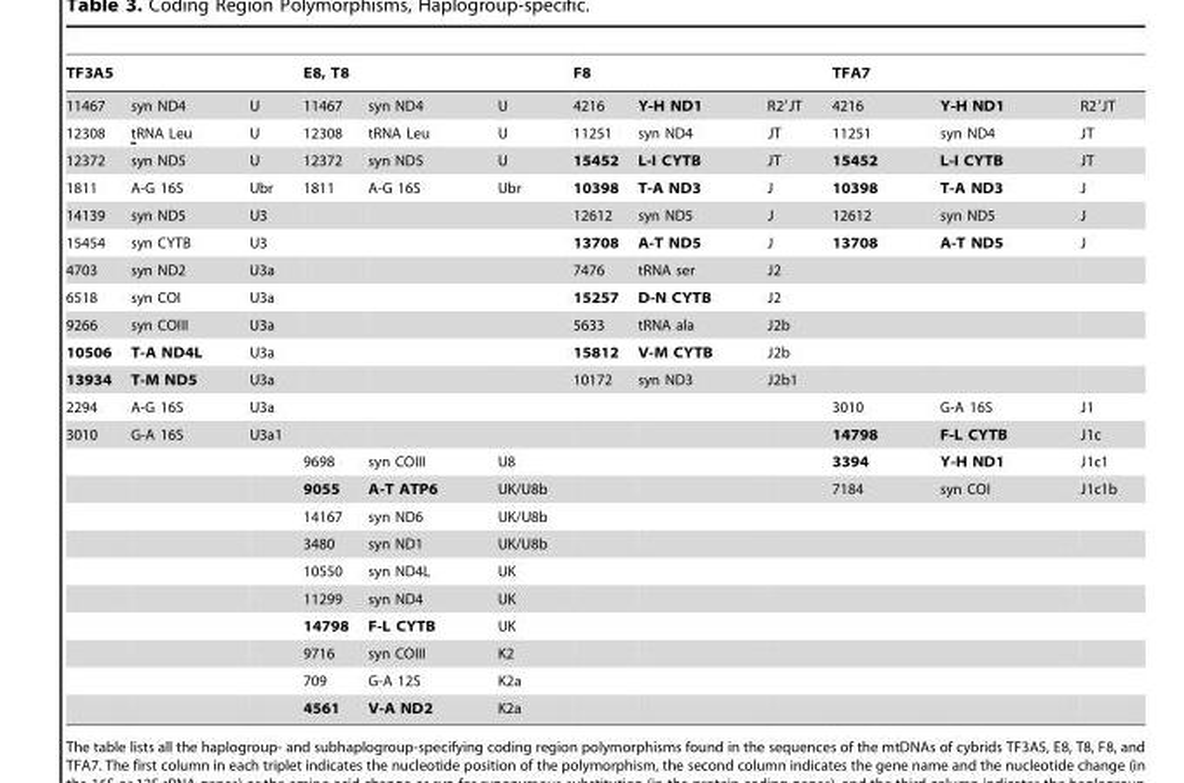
<table><thead><tr><td colspan="3">TF3A5</td><td colspan="3">E8, T8</td><td colspan="3">F8</td><td colspan="3">TFA7</td></tr><tr><td>11467</td><td>syn ND4</td><td>U</td><td>11467</td><td>syn ND4</td><td>U</td><td>4216</td><td>Y-H ND1</td><td>R2′JT</td><td>4216</td><td>Y-H ND1</td><td>R2′JT</td></tr></thead><tbody><tr><td>12308</td><td>tRNA Leu</td><td>U</td><td>12308</td><td>tRNA Leu</td><td>U</td><td>11251</td><td>syn ND4</td><td>JT</td><td>11251</td><td>syn ND4</td><td>JT</td></tr><tr><td>12372</td><td>syn ND5</td><td>U</td><td>12372</td><td>syn ND5</td><td>U</td><td>15452</td><td>L-I CYTB</td><td>JT</td><td>15452</td><td>L-I CYTB</td><td>JT</td></tr><tr><td>1811</td><td>A-G 16S</td><td>Ubr</td><td>1811</td><td>A-G 16S</td><td>Ubr</td><td>10398</td><td>T-A ND3</td><td>J</td><td>10398</td><td>T-A ND3</td><td>J</td></tr><tr><td>14139</td><td>syn ND5</td><td>U3</td><td></td><td></td><td></td><td>12612</td><td>syn ND5</td><td>J</td><td>12612</td><td>syn ND5</td><td>J</td></tr><tr><td>15454</td><td>syn CYTB</td><td>U3</td><td></td><td></td><td></td><td>13708</td><td>A-T ND5</td><td>J</td><td>13708</td><td>A-T ND5</td><td>J</td></tr><tr><td>4703</td><td>syn ND2</td><td>U3a</td><td></td><td></td><td></td><td>7476</td><td>tRNA ser</td><td>J2</td><td></td><td></td><td></td></tr><tr><td>6518</td><td>syn COI</td><td>U3a</td><td></td><td></td><td></td><td>15257</td><td>D-N CYTB</td><td>J2</td><td></td><td></td><td></td></tr><tr><td>9266</td><td>syn COIII</td><td>U3a</td><td></td><td></td><td></td><td>5633</td><td>tRNA ala</td><td>J2b</td><td></td><td></td><td></td></tr><tr><td>10506</td><td>T-A ND4L</td><td>U3a</td><td></td><td></td><td></td><td>15812</td><td>V-M CYTB</td><td>J2b</td><td></td><td></td><td></td></tr><tr><td>13934</td><td>T-M ND5</td><td>U3a</td><td></td><td></td><td></td><td>10172</td><td>syn ND3</td><td>J2b1</td><td></td><td></td><td></td></tr><tr><td>2294</td><td>A-G 16S</td><td>U3a</td><td></td><td></td><td></td><td></td><td></td><td></td><td>3010</td><td>G-A 16S</td><td>J1</td></tr><tr><td rowspan="11">3010</td><td>G-A 16S</td><td>U3a1</td><td></td><td></td><td></td><td></td><td></td><td></td><td>14798</td><td>F-L CYTB</td><td>J1c</td></tr><tr><td></td><td></td><td>9698</td><td>syn COIII</td><td>U8</td><td></td><td></td><td></td><td>3394</td><td>Y-H ND1</td><td>J1c1</td></tr><tr><td></td><td></td><td>9055</td><td>A-T ATP6</td><td>UK/U8b</td><td></td><td></td><td></td><td>7184</td><td>syn COI</td><td>J1c1b</td></tr><tr><td></td><td></td><td>14167</td><td>syn ND6</td><td>UK/U8b</td><td></td><td></td><td></td><td></td><td></td><td></td></tr><tr><td></td><td></td><td>3480</td><td>syn ND1</td><td>UK/U8b</td><td></td><td></td><td></td><td></td><td></td><td></td></tr><tr><td></td><td></td><td>10550</td><td>syn ND4L</td><td>UK</td><td></td><td></td><td></td><td></td><td></td><td></td></tr><tr><td></td><td></td><td>11299</td><td>syn ND4</td><td>UK</td><td></td><td></td><td></td><td></td><td></td><td></td></tr><tr><td></td><td></td><td>14798</td><td>F-L CYTB</td><td>UK</td><td></td><td></td><td></td><td></td><td></td><td></td></tr><tr><td></td><td></td><td>9716</td><td>syn COIII</td><td>K2</td><td></td><td></td><td></td><td></td><td></td><td></td></tr><tr><td></td><td></td><td>709</td><td>G-A 12S</td><td>K2a</td><td></td><td></td><td></td><td></td><td></td><td></td></tr><tr><td></td><td></td><td>4561</td><td>V-A ND2</td><td>K2a</td><td></td><td></td><td></td><td></td><td></td><td></td></tr></tbody></table>